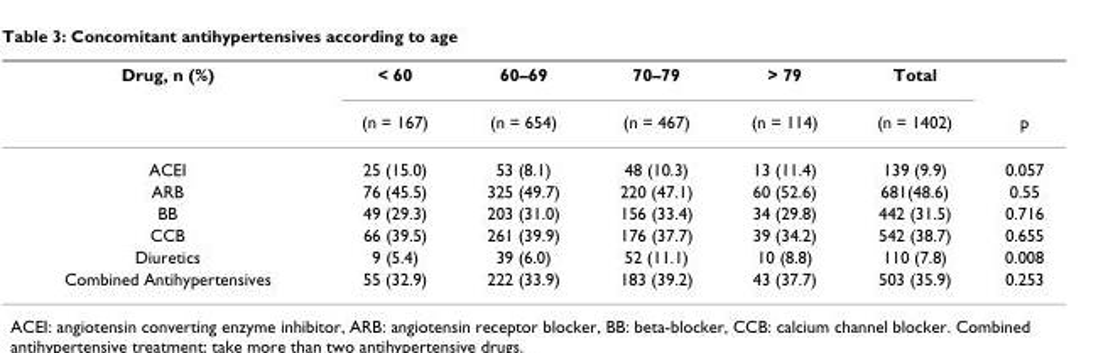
<table><thead><tr><td rowspan="2">Drug, n (%)</td><td rowspan="2">&lt; 60 (n = 167)</td><td rowspan="2">60–69 (n = 654)</td><td rowspan="2">70–79 (n = 467)</td><td rowspan="2">&gt; 79 (n = 114)</td><td rowspan="2">Total (n = 1402)</td><td rowspan="2">p</td></tr><tr></tr></thead><tbody><tr><td>ACEI</td><td>25 (15.0)</td><td>53 (8.1)</td><td>48 (10.3)</td><td>13 (11.4)</td><td>139 (9.9)</td><td>0.057</td></tr><tr><td>ARB</td><td>76 (45.5)</td><td>325 (49.7)</td><td>220 (47.1)</td><td>60 (52.6)</td><td>681(48.6)</td><td>0.55</td></tr><tr><td>BB</td><td>49 (29.3)</td><td>203 (31.0)</td><td>156 (33.4)</td><td>34 (29.8)</td><td>442 (31.5)</td><td>0.716</td></tr><tr><td>CCB</td><td>66 (39.5)</td><td>261 (39.9)</td><td>176 (37.7)</td><td>39 (34.2)</td><td>542 (38.7)</td><td>0.655</td></tr><tr><td>Diuretics</td><td>9 (5.4)</td><td>39 (6.0)</td><td>52 (11.1)</td><td>10 (8.8)</td><td>110 (7.8)</td><td>0.008</td></tr><tr><td>Combined Antihypertensives</td><td>55 (32.9)</td><td>222 (33.9)</td><td>183 (39.2)</td><td>43 (37.7)</td><td>503 (35.9)</td><td>0.253</td></tr></tbody></table>